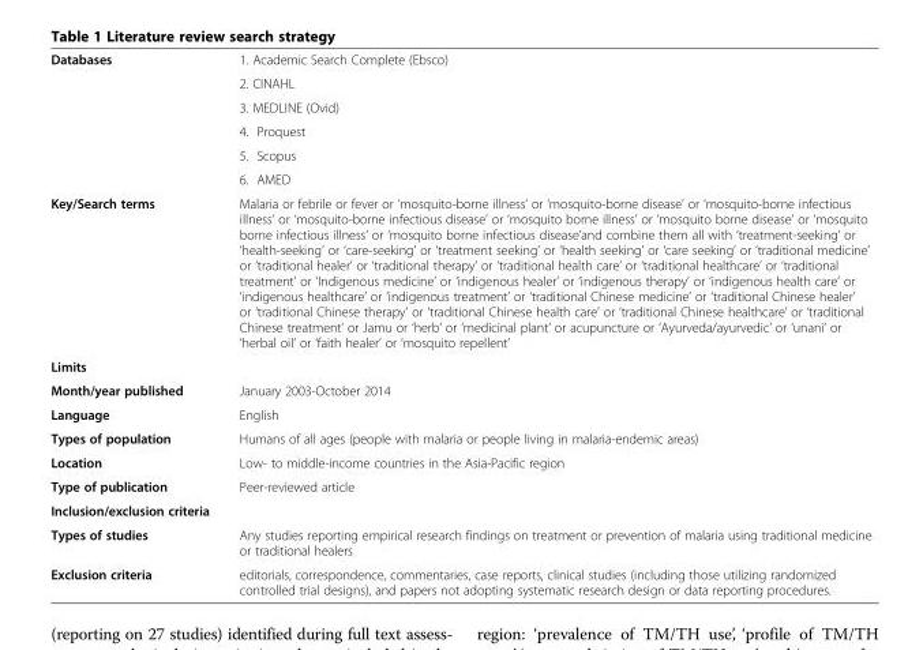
<table><tbody><tr><td rowspan="6">Databases</td><td>1. Academic Search Complete (Ebsco)</td></tr><tr><td>2. CINAHL</td></tr><tr><td>3. MEDLINE (Ovid)</td></tr><tr><td>4. Proquest</td></tr><tr><td>5. Scopus</td></tr><tr><td>6. AMED</td></tr><tr><td>Key/Search terms</td><td>Malaria or febrile or fever or ‘mosquito-borne illness’ or ‘mosquito-borne disease’ or ‘mosquito-borne infectious illness’ or ‘mosquito-borne infectious disease’ or ‘mosquito borne illness’ or ‘mosquito borne disease’ or ‘mosquito borne infectious illness’ or ‘mosquito borne infectious disease’and combine them all with ‘treatment-seeking’ or ‘health-seeking’ or ‘care-seeking’ or ‘treatment seeking’ or ‘health seeking’ or ‘care seeking’ or ‘traditional medicine’ or ‘traditional healer’ or ‘traditional therapy’ or ‘traditional health care’ or ‘traditional healthcare’ or ‘traditional treatment’ or ‘Indigenous medicine’ or ‘indigenous healer’ or ‘indigenous therapy’ or ‘indigenous health care’ or ‘indigenous healthcare’ or ‘indigenous treatment’ or ‘traditional Chinese medicine’ or ‘traditional Chinese healer’ or ‘traditional Chinese therapy’ or ‘traditional Chinese health care’ or ‘traditional Chinese healthcare’ or ‘traditional Chinese treatment’ or Jamu or ‘herb’ or ‘medicinal plant’ or acupuncture or ‘Ayurveda/ayurvedic’ or ‘unani’ or ‘herbal oil’ or ‘faith healer’ or ‘mosquito repellent’</td></tr><tr><td colspan="2">Limits</td></tr><tr><td>Month/year published</td><td>January 2003-October 2014</td></tr><tr><td>Language</td><td>English</td></tr><tr><td>Types of population</td><td>Humans of all ages (people with malaria or people living in malaria-endemic areas)</td></tr><tr><td>Location</td><td>Low- to middle-income countries in the Asia-Pacific region</td></tr><tr><td>Type of publication</td><td>Peer-reviewed article</td></tr><tr><td colspan="2">Inclusion/exclusion criteria</td></tr><tr><td>Types of studies</td><td>Any studies reporting empirical research findings on treatment or prevention of malaria using traditional medicine or traditional healers</td></tr><tr><td>Exclusion criteria</td><td>editorials, correspondence, commentaries, case reports, clinical studies (including those utilizing randomized controlled trial designs), and papers not adopting systematic research design or data reporting procedures.</td></tr></tbody></table>